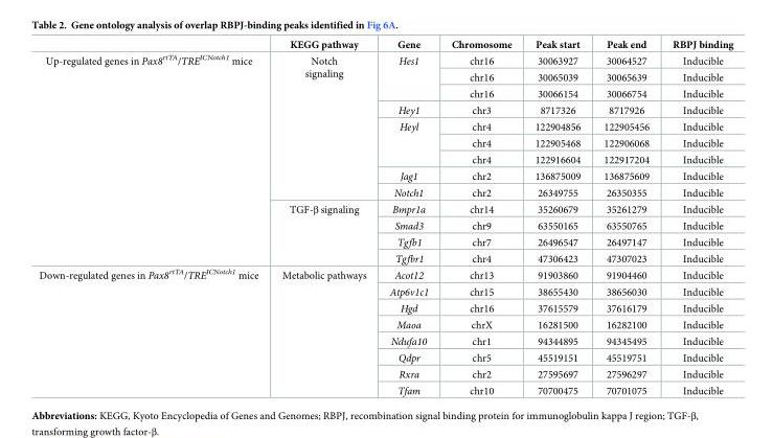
<table><thead><tr><td></td><td>KEGG pathway</td><td>Gene</td><td>Chromosome</td><td>Peak start</td><td>Peak end</td><td>RBPJ binding</td></tr></thead><tbody><tr><td rowspan="13">Up-regulated genes in Pax8<sup>rtTA</sup>/TRE<sup>ICNotch1</sup> mice</td><td rowspan="9">Notch signaling</td><td rowspan="3">Hes1</td><td>chr16</td><td>30063927</td><td>30064527</td><td>Inducible</td></tr><tr><td>chr16</td><td>30065039</td><td>30065639</td><td>Inducible</td></tr><tr><td>chr16</td><td>30066154</td><td>30066754</td><td>Inducible</td></tr><tr><td>Hey1</td><td>chr3</td><td>8717326</td><td>8717926</td><td>Inducible</td></tr><tr><td rowspan="3">Heyl</td><td>chr4</td><td>122904856</td><td>122905456</td><td>Inducible</td></tr><tr><td>chr4</td><td>122905468</td><td>122906068</td><td>Inducible</td></tr><tr><td>chr4</td><td>122916604</td><td>122917204</td><td>Inducible</td></tr><tr><td>Jag1</td><td>chr2</td><td>136875009</td><td>136875609</td><td>Inducible</td></tr><tr><td>Notch1</td><td>chr2</td><td>26349755</td><td>26350355</td><td>Inducible</td></tr><tr><td rowspan="4">TGF-β signaling</td><td>Bmpr1a</td><td>chr14</td><td>35260679</td><td>35261279</td><td>Inducible</td></tr><tr><td>Smad3</td><td>chr9</td><td>63550165</td><td>63550765</td><td>Inducible</td></tr><tr><td>Tgfb1</td><td>chr7</td><td>26496547</td><td>26497147</td><td>Inducible</td></tr><tr><td>Tgfbr1</td><td>chr4</td><td>47306423</td><td>47307023</td><td>Inducible</td></tr><tr><td rowspan="8">Down-regulated genes in Pax8<sup>rtTA</sup>/TRE<sup>ICNotch1</sup> mice</td><td rowspan="8">Metabolic pathways</td><td>Acot12</td><td>chr13</td><td>91903860</td><td>91904460</td><td>Inducible</td></tr><tr><td>Atp6v1c1</td><td>chr15</td><td>38655430</td><td>38656030</td><td>Inducible</td></tr><tr><td>Hgd</td><td>chr16</td><td>37615579</td><td>37616179</td><td>Inducible</td></tr><tr><td>Maoa</td><td>chrX</td><td>16281500</td><td>16282100</td><td>Inducible</td></tr><tr><td>Ndufa10</td><td>chr1</td><td>94344895</td><td>94345495</td><td>Inducible</td></tr><tr><td>Qdpr</td><td>chr5</td><td>45519151</td><td>45519751</td><td>Inducible</td></tr><tr><td>Rxra</td><td>chr2</td><td>27595697</td><td>27596297</td><td>Inducible</td></tr><tr><td>Tfam</td><td>chr10</td><td>70700475</td><td>70701075</td><td>Inducible</td></tr></tbody></table>